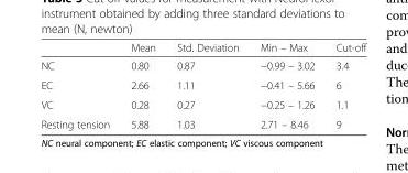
<table><thead><tr><td></td><td>Mean</td><td>Std. Deviation</td><td>Min – Max</td><td>Cut-off</td></tr></thead><tbody><tr><td>NC</td><td>0.80</td><td>0.87</td><td>−0.99 – 3.02</td><td>3.4</td></tr><tr><td>EC</td><td>2.66</td><td>1.11</td><td>−0.41 – 5.66</td><td>6</td></tr><tr><td>VC</td><td>0.28</td><td>0.27</td><td>−0.25 – 1.26</td><td>1.1</td></tr><tr><td>Resting tension</td><td>5.88</td><td>1.03</td><td>2.71 – 8.46</td><td>9</td></tr></tbody></table>